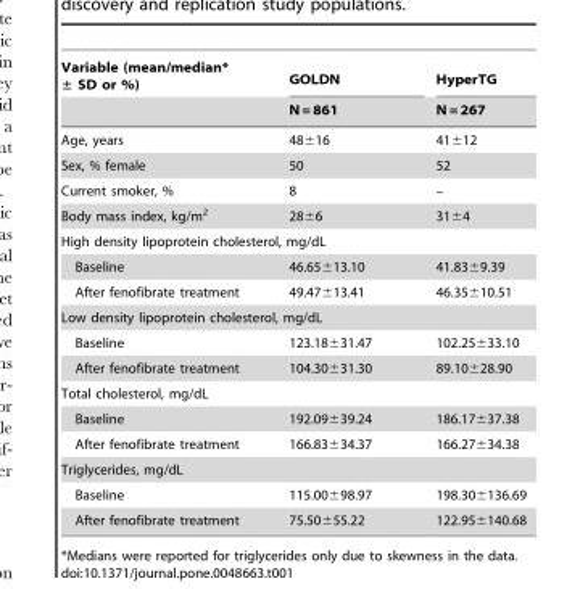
<table><thead><tr><td rowspan="2">Variable (mean/median* ± SD or %)</td><td rowspan="2">GOLDN N = 861</td><td rowspan="2">HyperTG N = 267</td></tr><tr></tr></thead><tbody><tr><td>Age, years</td><td>48±16</td><td>41±12</td></tr><tr><td>Sex, % female</td><td>50</td><td>52</td></tr><tr><td>Current smoker, %</td><td>8</td><td>–</td></tr><tr><td>Body mass index, kg/m<sup>2</sup></td><td>28±6</td><td>31±4</td></tr><tr><td colspan="3">High density lipoprotein cholesterol, mg/dL</td></tr><tr><td>Baseline</td><td>46.65±13.10</td><td>41.83±9.39</td></tr><tr><td>After fenofibrate treatment</td><td>49.47±13.41</td><td>46.35±10.51</td></tr><tr><td colspan="3">Low density lipoprotein cholesterol, mg/dL</td></tr><tr><td>Baseline</td><td>123.18±31.47</td><td>102.25±33.10</td></tr><tr><td>After fenofibrate treatment</td><td>104.30±31.30</td><td>89.10±28.90</td></tr><tr><td colspan="3">Total cholesterol, mg/dL</td></tr><tr><td>Baseline</td><td>192.09±39.24</td><td>186.17±37.38</td></tr><tr><td>After fenofibrate treatment</td><td>166.83±34.37</td><td>166.27±34.38</td></tr><tr><td colspan="3">Triglycerides, mg/dL</td></tr><tr><td>Baseline</td><td>115.00±98.97</td><td>198.30±136.69</td></tr><tr><td>After fenofibrate treatment</td><td>75.50±55.22</td><td>122.95±140.68</td></tr></tbody></table>